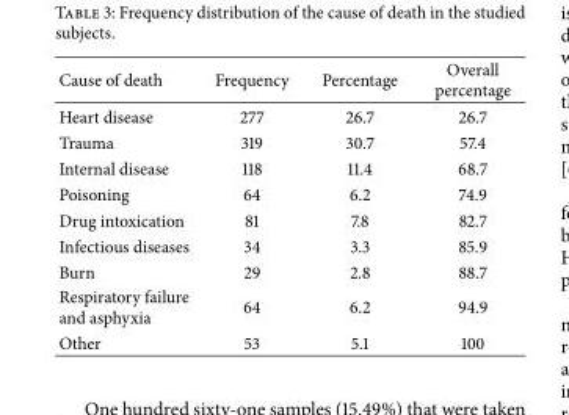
<table><thead><tr><td>Cause of death</td><td>Frequency</td><td>Percentage</td><td>Overall percentage</td></tr></thead><tbody><tr><td>Heart disease</td><td>277</td><td>26.7</td><td>26.7</td></tr><tr><td>Trauma</td><td>319</td><td>30.7</td><td>57.4</td></tr><tr><td>Internal disease</td><td>118</td><td>11.4</td><td>68.7</td></tr><tr><td>Poisoning</td><td>64</td><td>6.2</td><td>74.9</td></tr><tr><td>Drug intoxication</td><td>81</td><td>7.8</td><td>82.7</td></tr><tr><td>Infectious diseases</td><td>34</td><td>3.3</td><td>85.9</td></tr><tr><td>Burn</td><td>29</td><td>2.8</td><td>88.7</td></tr><tr><td>Respiratory failure and asphyxia</td><td>64</td><td>6.2</td><td>94.9</td></tr><tr><td>Other</td><td>53</td><td>5.1</td><td>100</td></tr></tbody></table>